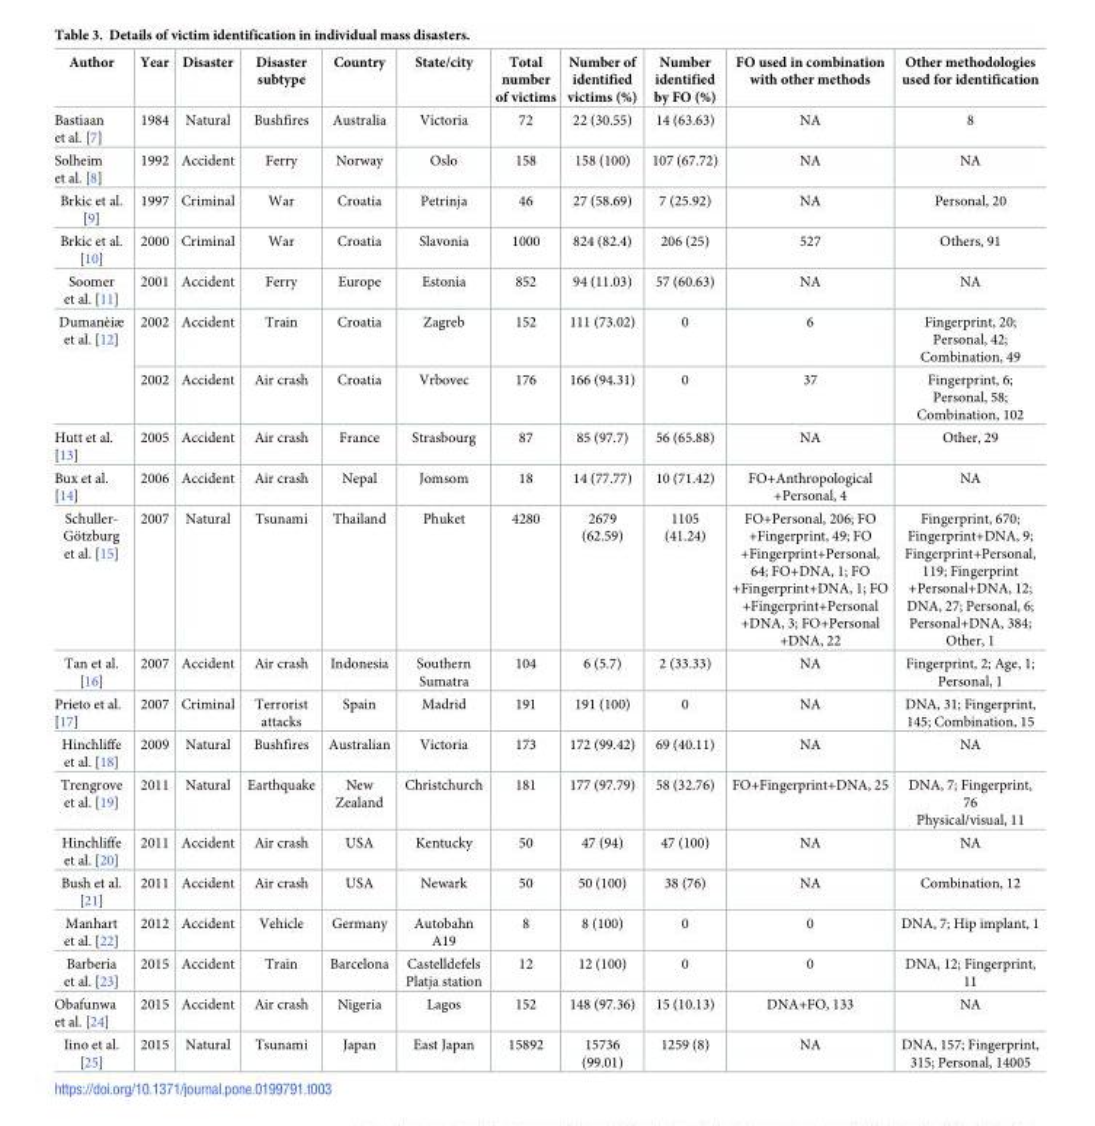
<table><thead><tr><td>Author</td><td>Year</td><td>Disaster</td><td>Disaster subtype</td><td>Country</td><td>State/city</td><td>Total number of victims</td><td>Number of identified victims (%)</td><td>Number identified by FO (%)</td><td>FO used in combination with other methods</td><td>Other methodologies used for identification</td></tr></thead><tbody><tr><td>Bastiaan et al. [7]</td><td>1984</td><td>Natural</td><td>Bushfires</td><td>Australia</td><td>Victoria</td><td>72</td><td>22 (30.55)</td><td>14 (63.63)</td><td>NA</td><td>8</td></tr><tr><td>Solheim et al. [8]</td><td>1992</td><td>Accident</td><td>Ferry</td><td>Norway</td><td>Oslo</td><td>158</td><td>158 (100)</td><td>107 (67.72)</td><td>NA</td><td>NA</td></tr><tr><td>Brkic et al. [9]</td><td>1997</td><td>Criminal</td><td>War</td><td>Croatia</td><td>Petrinja</td><td>46</td><td>27 (58.69)</td><td>7 (25.92)</td><td>NA</td><td>Personal, 20</td></tr><tr><td>Brkic et al. [10]</td><td>2000</td><td>Criminal</td><td>War</td><td>Croatia</td><td>Slavonia</td><td>1000</td><td>824 (82.4)</td><td>206 (25)</td><td>527</td><td>Others, 91</td></tr><tr><td>Soomer et al. [11]</td><td>2001</td><td>Accident</td><td>Ferry</td><td>Europe</td><td>Estonia</td><td>852</td><td>94 (11.03)</td><td>57 (60.63)</td><td>NA</td><td>NA</td></tr><tr><td rowspan="2">Dumanèiæ et al. [12]</td><td>2002</td><td>Accident</td><td>Train</td><td>Croatia</td><td>Zagreb</td><td>152</td><td>111 (73.02)</td><td>0</td><td>6</td><td>Fingerprint, 20; Personal, 42; Combination, 49</td></tr><tr><td>2002</td><td>Accident</td><td>Air crash</td><td>Croatia</td><td>Vrbovec</td><td>176</td><td>166 (94.31)</td><td>0</td><td>37</td><td>Fingerprint, 6; Personal, 58; Combination, 102</td></tr><tr><td>Hutt et al. [13]</td><td>2005</td><td>Accident</td><td>Air crash</td><td>France</td><td>Strasbourg</td><td>87</td><td>85 (97.7)</td><td>56 (65.88)</td><td>NA</td><td>Other, 29</td></tr><tr><td>Bux et al. [14]</td><td>2006</td><td>Accident</td><td>Air crash</td><td>Nepal</td><td>Jomsom</td><td>18</td><td>14 (77.77)</td><td>10 (71.42)</td><td>FO+Anthropological +Personal, 4</td><td>NA</td></tr><tr><td>Schuller- Go¨tzburg et al. [15]</td><td>2007</td><td>Natural</td><td>Tsunami</td><td>Thailand</td><td>Phuket</td><td>4280</td><td>2679 (62.59)</td><td>1105 (41.24)</td><td>FO+Personal, 206; FO +Fingerprint, 49; FO +Fingerprint+Personal, 64; FO+DNA, 1; FO +Fingerprint+DNA, 1; FO +Fingerprint+Personal +DNA, 3; FO+Personal +DNA, 22</td><td>Fingerprint, 670; Fingerprint+DNA, 9; Fingerprint+Personal, 119; Fingerprint +Personal+DNA, 12; DNA, 27; Personal, 6; Personal+DNA, 384; Other, 1</td></tr><tr><td>Tan et al. [16]</td><td>2007</td><td>Accident</td><td>Air crash</td><td>Indonesia</td><td>Southern Sumatra</td><td>104</td><td>6 (5.7)</td><td>2 (33.33)</td><td>NA</td><td>Fingerprint, 2; Age, 1; Personal, 1</td></tr><tr><td>Prieto et al. [17]</td><td>2007</td><td>Criminal</td><td>Terrorist attacks</td><td>Spain</td><td>Madrid</td><td>191</td><td>191 (100)</td><td>0</td><td>NA</td><td>DNA, 31; Fingerprint, 145; Combination, 15</td></tr><tr><td>Hinchliffe et al. [18]</td><td>2009</td><td>Natural</td><td>Bushfires</td><td>Australian</td><td>Victoria</td><td>173</td><td>172 (99.42)</td><td>69 (40.11)</td><td>NA</td><td>NA</td></tr><tr><td>Trengrove et al. [19]</td><td>2011</td><td>Natural</td><td>Earthquake</td><td>New Zealand</td><td>Christchurch</td><td>181</td><td>177 (97.79)</td><td>58 (32.76)</td><td>FO+Fingerprint+DNA, 25</td><td>DNA, 7; Fingerprint, 76 Physical/visual, 11</td></tr><tr><td>Hinchliffe et al. [20]</td><td>2011</td><td>Accident</td><td>Air crash</td><td>USA</td><td>Kentucky</td><td>50</td><td>47 (94)</td><td>47 (100)</td><td>NA</td><td>NA</td></tr><tr><td>Bush et al. [21]</td><td>2011</td><td>Accident</td><td>Air crash</td><td>USA</td><td>Newark</td><td>50</td><td>50 (100)</td><td>38 (76)</td><td>NA</td><td>Combination, 12</td></tr><tr><td>Manhart et al. [22]</td><td>2012</td><td>Accident</td><td>Vehicle</td><td>Germany</td><td>Autobahn A19</td><td>8</td><td>8 (100)</td><td>0</td><td>0</td><td>DNA, 7; Hip implant, 1</td></tr><tr><td>Barberia et al. [23]</td><td>2015</td><td>Accident</td><td>Train</td><td>Barcelona</td><td>Castelldefels Platja station</td><td>12</td><td>12 (100)</td><td>0</td><td>0</td><td>DNA, 12; Fingerprint, 11</td></tr><tr><td>Obafunwa et al. [24]</td><td>2015</td><td>Accident</td><td>Air crash</td><td>Nigeria</td><td>Lagos</td><td>152</td><td>148 (97.36)</td><td>15 (10.13)</td><td>DNA+FO, 133</td><td>NA</td></tr><tr><td>Iino et al. [25]</td><td>2015</td><td>Natural</td><td>Tsunami</td><td>Japan</td><td>East Japan</td><td>15892</td><td>15736 (99.01)</td><td>1259 (8)</td><td>NA</td><td>DNA, 157; Fingerprint, 315; Personal, 14005</td></tr></tbody></table>